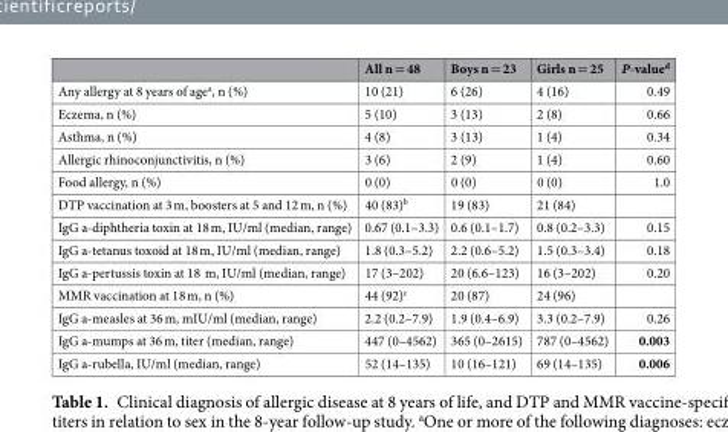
<table><thead><tr><td></td><td>All n = 48</td><td>Boys n = 23</td><td>Girls n = 25</td><td>P-value<sup>d</sup></td></tr></thead><tbody><tr><td>Any allergy at 8 years of age<sup>a</sup>, n (%)</td><td>10 (21)</td><td>6 (26)</td><td>4 (16)</td><td>0.49</td></tr><tr><td>Eczema, n (%)</td><td>5 (10)</td><td>3 (13)</td><td>2 (8)</td><td>0.66</td></tr><tr><td>Asthma, n (%)</td><td>4 (8)</td><td>3 (13)</td><td>1 (4)</td><td>0.34</td></tr><tr><td>Allergic rhinoconjunctivitis, n (%)</td><td>3 (6)</td><td>2 (9)</td><td>1 (4)</td><td>0.60</td></tr><tr><td>Food allergy, n (%)</td><td>0 (0)</td><td>0 (0)</td><td>0 (0)</td><td>1.0</td></tr><tr><td>DTP vaccination at 3 m, boosters at 5 and 12 m, n (%)</td><td>40 (83)<sup>b</sup></td><td>19 (83)</td><td>21 (84)</td><td></td></tr><tr><td>IgG a-diphtheria toxin at 18 m, IU/ml (median, range)</td><td>0.67 (0.1–3.3)</td><td>0.6 (0.1–1.7)</td><td>0.8 (0.2–3.3)</td><td>0.15</td></tr><tr><td>IgG a-tetanus toxoid at 18 m, IU/ml (median, range)</td><td>1.8 (0.3–5.2)</td><td>2.2 (0.6–5.2)</td><td>1.5 (0.3–3.4)</td><td>0.18</td></tr><tr><td>IgG a-pertussis toxin at 18 m, IU/ml (median, range)</td><td>17 (3–202)</td><td>20 (6.6–123)</td><td>16 (3–202)</td><td>0.20</td></tr><tr><td>MMR vaccination at 18 m, n (%)</td><td>44 (92)<sup>c</sup></td><td>20 (87)</td><td>24 (96)</td><td></td></tr><tr><td>IgG a-measles at 36 m, mIU/ml (median, range)</td><td>2.2 (0.2–7.9)</td><td>1.9 (0.4–6.9)</td><td>3.3 (0.2–7.9)</td><td>0.26</td></tr><tr><td>IgG a-mumps at 36 m, titer (median, range)</td><td>447 (0–4562)</td><td>365 (0–2615)</td><td>787 (0–4562)</td><td>0.003</td></tr><tr><td>IgG a-rubella, IU/ml (median, range)</td><td>52 (14–135)</td><td>10 (16–121)</td><td>69 (14–135)</td><td>0.006</td></tr></tbody></table>